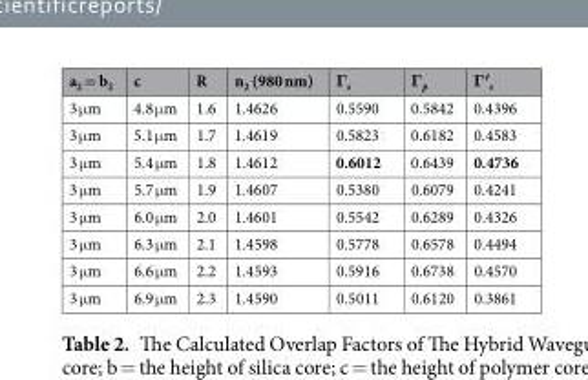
<table><thead><tr><td>a<sub>2</sub> = b<sub>2</sub></td><td>c</td><td>R</td><td>n<sub>2</sub> (980 nm)</td><td>Γ<sub>s</sub></td><td>Γ<sub>p</sub></td><td>Γ′<sub>s</sub></td></tr></thead><tbody><tr><td>3 μm</td><td>4.8 μm</td><td>1.6</td><td>1.4626</td><td>0.5590</td><td>0.5842</td><td>0.4396</td></tr><tr><td>3 μm</td><td>5.1 μm</td><td>1.7</td><td>1.4619</td><td>0.5823</td><td>0.6182</td><td>0.4583</td></tr><tr><td>3 μm</td><td>5.4 μm</td><td>1.8</td><td>1.4612</td><td>0.6012</td><td>0.6439</td><td>0.4736</td></tr><tr><td>3 μm</td><td>5.7 μm</td><td>1.9</td><td>1.4607</td><td>0.5380</td><td>0.6079</td><td>0.4241</td></tr><tr><td>3 μm</td><td>6.0 μm</td><td>2.0</td><td>1.4601</td><td>0.5542</td><td>0.6289</td><td>0.4326</td></tr><tr><td>3 μm</td><td>6.3 μm</td><td>2.1</td><td>1.4598</td><td>0.5778</td><td>0.6578</td><td>0.4494</td></tr><tr><td>3 μm</td><td>6.6 μm</td><td>2.2</td><td>1.4593</td><td>0.5916</td><td>0.6738</td><td>0.4570</td></tr><tr><td>3 μm</td><td>6.9 μm</td><td>2.3</td><td>1.4590</td><td>0.5011</td><td>0.6120</td><td>0.3861</td></tr></tbody></table>